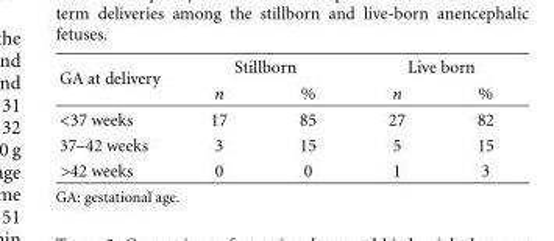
<table><thead><tr><td rowspan="2">GA at delivery</td><td colspan="2">Stillborn</td><td colspan="2">Live born</td></tr><tr><td>n</td><td>%</td><td>n</td><td>%</td></tr></thead><tbody><tr><td>&lt;37 weeks</td><td>17</td><td>85</td><td>27</td><td>82</td></tr><tr><td>37–42 weeks</td><td>3</td><td>15</td><td>5</td><td>15</td></tr><tr><td>&gt;42 weeks</td><td>0</td><td>0</td><td>1</td><td>3</td></tr></tbody></table>